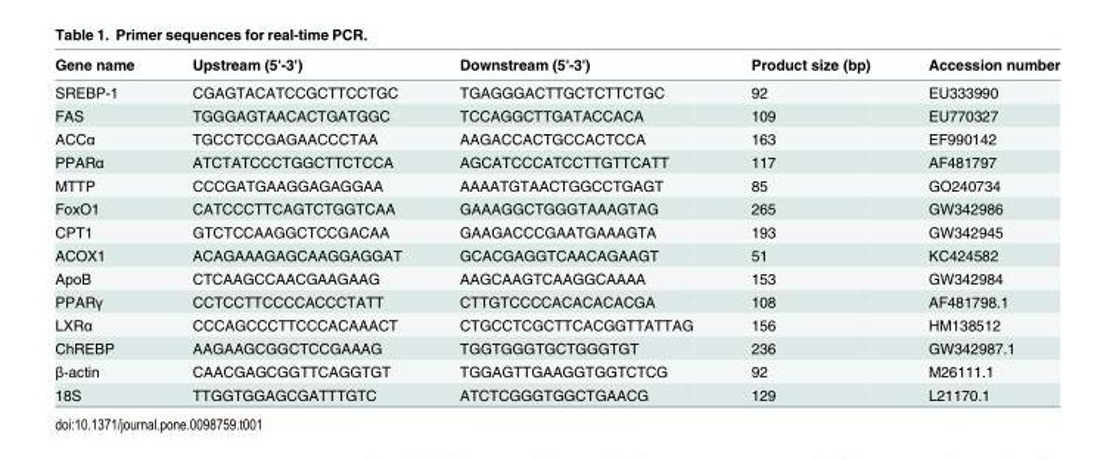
<table><thead><tr><td>Gene name</td><td>Upstream (5&#x27;-3&#x27;)</td><td>Downstream (5&#x27;-3&#x27;)</td><td>Product size (bp)</td><td>Accession number</td></tr></thead><tbody><tr><td>SREBP-1</td><td>CGAGTACATCCGCTTCCTGC</td><td>TGAGGGACTTGCTCTTCTGC</td><td>92</td><td>EU333990</td></tr><tr><td>FAS</td><td>TGGGAGTAACACTGATGGC</td><td>TCCAGGCTTGATACCACA</td><td>109</td><td>EU770327</td></tr><tr><td>ACCα</td><td>TGCCTCCGAGAACCCTAA</td><td>AAGACCACTGCCACTCCA</td><td>163</td><td>EF990142</td></tr><tr><td>PPARα</td><td>ATCTATCCCTGGCTTCTCCA</td><td>AGCATCCCATCCTTGTTCATT</td><td>117</td><td>AF481797</td></tr><tr><td>MTTP</td><td>CCCGATGAAGGAGAGGAA</td><td>AAAATGTAACTGGCCTGAGT</td><td>85</td><td>GO240734</td></tr><tr><td>FoxO1</td><td>CATCCCTTCAGTCTGGTCAA</td><td>GAAAGGCTGGGTAAAGTAG</td><td>265</td><td>GW342986</td></tr><tr><td>CPT1</td><td>GTCTCCAAGGCTCCGACAA</td><td>GAAGACCCGAATGAAAGTA</td><td>193</td><td>GW342945</td></tr><tr><td>ACOX1</td><td>ACAGAAAGAGCAAGGAGGAT</td><td>GCACGAGGTCAACAGAAGT</td><td>51</td><td>KC424582</td></tr><tr><td>ApoB</td><td>CTCAAGCCAACGAAGAAG</td><td>AAGCAAGTCAAGGCAAAA</td><td>153</td><td>GW342984</td></tr><tr><td>PPARγ</td><td>CCTCCTTCCCCACCCTATT</td><td>CTTGTCCCCACACACACGA</td><td>108</td><td>AF481798.1</td></tr><tr><td>LXRα</td><td>CCCAGCCCTTCCCACAAACT</td><td>CTGCCTCGCTTCACGGTTATTAG</td><td>156</td><td>HM138512</td></tr><tr><td>ChREBP</td><td>AAGAAGCGGCTCCGAAAG</td><td>TGGTGGGTGCTGGGTGT</td><td>236</td><td>GW342987.1</td></tr><tr><td>β-actin</td><td>CAACGAGCGGTTCAGGTGT</td><td>TGGAGTTGAAGGTGGTCTCG</td><td>92</td><td>M26111.1</td></tr><tr><td>18S</td><td>TTGGTGGAGCGATTTGTC</td><td>ATCTCGGGTGGCTGAACG</td><td>129</td><td>L21170.1</td></tr></tbody></table>